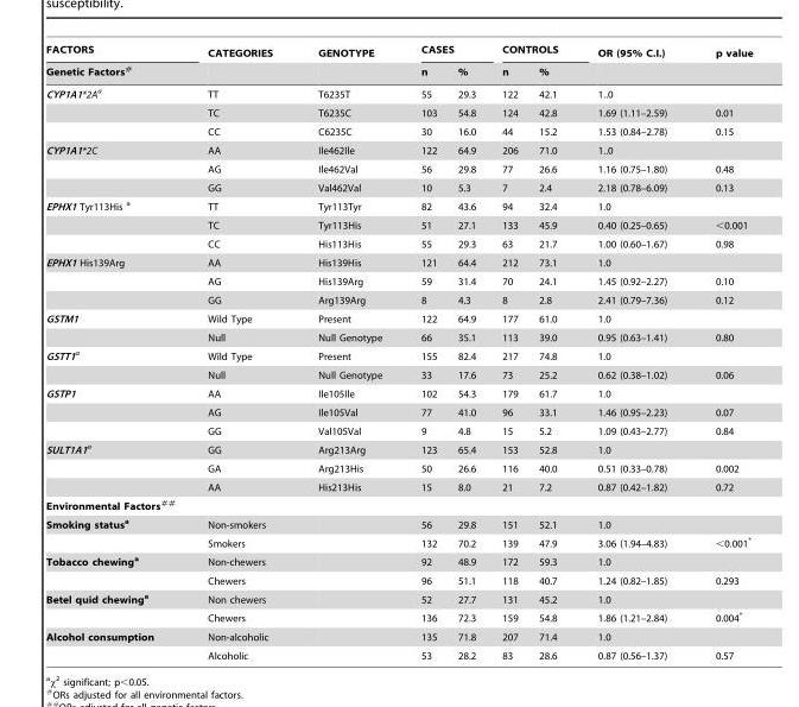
<table><thead><tr><td rowspan="2">FACTORS Genetic Factors#</td><td rowspan="2">CATEGORIES</td><td rowspan="2">GENOTYPE</td><td colspan="2">CASES</td><td colspan="2">CONTROLS</td><td rowspan="2">OR (95% C.I.)</td><td rowspan="2">p value</td></tr><tr><td>n</td><td>%</td><td>n</td><td>%</td></tr></thead><tbody><tr><td rowspan="3">CYP1A1*2Aa</td><td>TT</td><td>T6235T</td><td>55</td><td>29.3</td><td>122</td><td>42.1</td><td>1..0</td><td></td></tr><tr><td>TC</td><td>T6235C</td><td>103</td><td>54.8</td><td>124</td><td>42.8</td><td>1.69 (1.11–2.59)</td><td>0.01</td></tr><tr><td>CC</td><td>C6235C</td><td>30</td><td>16.0</td><td>44</td><td>15.2</td><td>1.53 (0.84–2.78)</td><td>0.15</td></tr><tr><td rowspan="3">CYP1A1*2C</td><td>AA</td><td>Ile462Ile</td><td>122</td><td>64.9</td><td>206</td><td>71.0</td><td>1..0</td><td></td></tr><tr><td>AG</td><td>Ile462Val</td><td>56</td><td>29.8</td><td>77</td><td>26.6</td><td>1.16 (0.75–1.80)</td><td>0.48</td></tr><tr><td>GG</td><td>Val462Val</td><td>10</td><td>5.3</td><td>7</td><td>2.4</td><td>2.18 (0.78–6.09)</td><td>0.13</td></tr><tr><td rowspan="3">EPHX1 Tyr113His a</td><td>TT</td><td>Tyr113Tyr</td><td>82</td><td>43.6</td><td>94</td><td>32.4</td><td>1.0</td><td></td></tr><tr><td>TC</td><td>Tyr113His</td><td>51</td><td>27.1</td><td>133</td><td>45.9</td><td>0.40 (0.25–0.65)</td><td>&lt;0.001</td></tr><tr><td>CC</td><td>His113His</td><td>55</td><td>29.3</td><td>63</td><td>21.7</td><td>1.00 (0.60–1.67)</td><td>0.98</td></tr><tr><td rowspan="3">EPHX1 His139Arg</td><td>AA</td><td>His139His</td><td>121</td><td>64.4</td><td>212</td><td>73.1</td><td>1.0</td><td></td></tr><tr><td>AG</td><td>His139Arg</td><td>59</td><td>31.4</td><td>70</td><td>24.1</td><td>1.45 (0.92–2.27)</td><td>0.10</td></tr><tr><td>GG</td><td>Arg139Arg</td><td>8</td><td>4.3</td><td>8</td><td>2.8</td><td>2.41 (0.79–7.36)</td><td>0.12</td></tr><tr><td rowspan="2">GSTM1</td><td>Wild Type</td><td>Present</td><td>122</td><td>64.9</td><td>177</td><td>61.0</td><td>1.0</td><td></td></tr><tr><td>Null</td><td>Null Genotype</td><td>66</td><td>35.1</td><td>113</td><td>39.0</td><td>0.95 (0.63–1.41)</td><td>0.80</td></tr><tr><td rowspan="2">GSTT1a</td><td>Wild Type</td><td>Present</td><td>155</td><td>82.4</td><td>217</td><td>74.8</td><td>1.0</td><td></td></tr><tr><td>Null</td><td>Null Genotype</td><td>33</td><td>17.6</td><td>73</td><td>25.2</td><td>0.62 (0.38–1.02)</td><td>0.06</td></tr><tr><td rowspan="3">GSTP1</td><td>AA</td><td>Ile105Ile</td><td>102</td><td>54.3</td><td>179</td><td>61.7</td><td>1.0</td><td></td></tr><tr><td>AG</td><td>Ile105Val</td><td>77</td><td>41.0</td><td>96</td><td>33.1</td><td>1.46 (0.95–2.23)</td><td>0.07</td></tr><tr><td>GG</td><td>Val105Val</td><td>9</td><td>4.8</td><td>15</td><td>5.2</td><td>1.09 (0.43–2.77)</td><td>0.84</td></tr><tr><td rowspan="3">SULT1A1a</td><td>GG</td><td>Arg213Arg</td><td>123</td><td>65.4</td><td>153</td><td>52.8</td><td>1.0</td><td></td></tr><tr><td>GA</td><td>Arg213His</td><td>50</td><td>26.6</td><td>116</td><td>40.0</td><td>0.51 (0.33–0.78)</td><td>0.002</td></tr><tr><td>AA</td><td>His213His</td><td>15</td><td>8.0</td><td>21</td><td>7.2</td><td>0.87 (0.42–1.82)</td><td>0.72</td></tr><tr><td colspan="9">Environmental Factors##</td></tr><tr><td rowspan="2">Smoking status<sup>a</sup></td><td>Non-smokers</td><td></td><td>56</td><td>29.8</td><td>151</td><td>52.1</td><td>1.0</td><td></td></tr><tr><td>Smokers</td><td></td><td>132</td><td>70.2</td><td>139</td><td>47.9</td><td>3.06 (1.94–4.83)</td><td>&lt;0.001*</td></tr><tr><td rowspan="2">Tobacco chewing<sup>a</sup></td><td>Non-chewers</td><td></td><td>92</td><td>48.9</td><td>172</td><td>59.3</td><td>1.0</td><td></td></tr><tr><td>Chewers</td><td></td><td>96</td><td>51.1</td><td>118</td><td>40.7</td><td>1.24 (0.82–1.85)</td><td>0.293</td></tr><tr><td rowspan="2">Betel quid chewing<sup>a</sup></td><td>Non chewers</td><td></td><td>52</td><td>27.7</td><td>131</td><td>45.2</td><td>1.0</td><td></td></tr><tr><td>Chewers</td><td></td><td>136</td><td>72.3</td><td>159</td><td>54.8</td><td>1.86 (1.21–2.84)</td><td>0.004*</td></tr><tr><td rowspan="2">Alcohol consumption</td><td>Non-alcoholic</td><td></td><td>135</td><td>71.8</td><td>207</td><td>71.4</td><td>1.0</td><td></td></tr><tr><td>Alcoholic</td><td></td><td>53</td><td>28.2</td><td>83</td><td>28.6</td><td>0.87 (0.56–1.37)</td><td>0.57</td></tr></tbody></table>